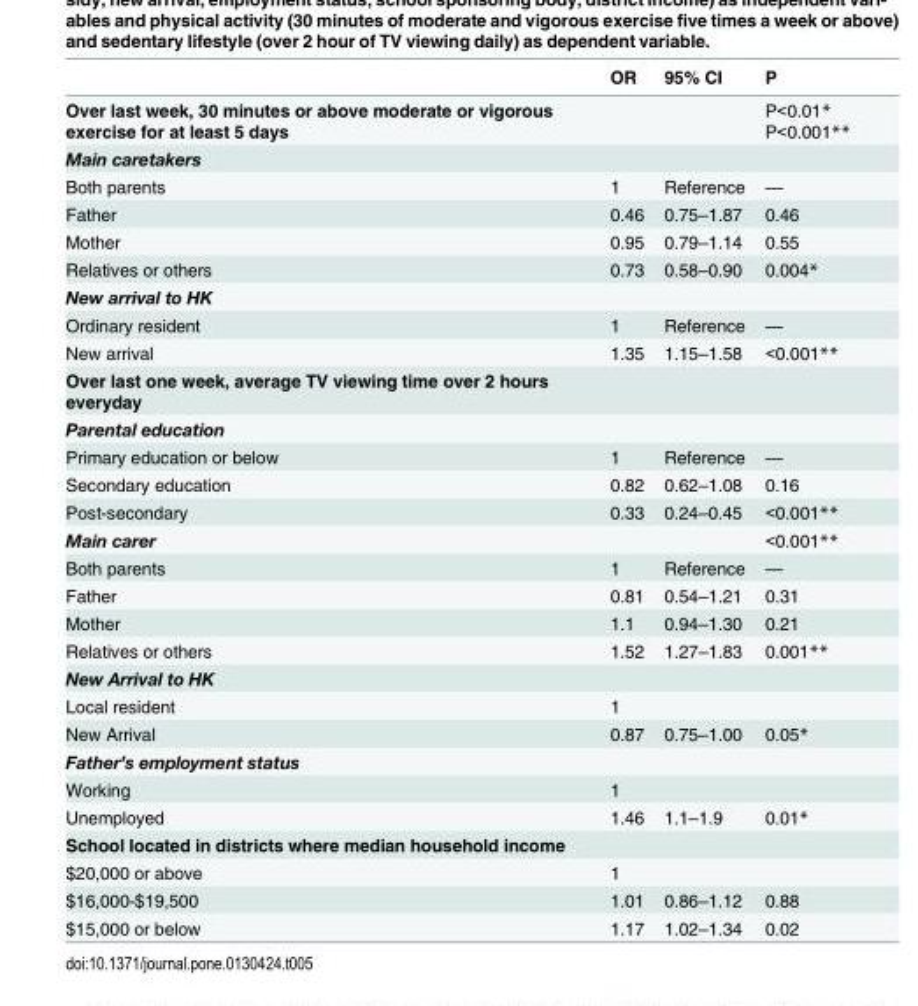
<table><thead><tr><td></td><td>OR</td><td>95% CI</td><td>P</td></tr></thead><tbody><tr><td>Over last week, 30 minutes or above moderate or vigorous exercise for at least 5 days</td><td></td><td></td><td>P&lt;0.01* P&lt;0.001**</td></tr><tr><td colspan="4">Main caretakers</td></tr><tr><td>Both parents</td><td>1</td><td>Reference</td><td>—</td></tr><tr><td>Father</td><td>0.46</td><td>0.75–1.87</td><td>0.46</td></tr><tr><td>Mother</td><td>0.95</td><td>0.79–1.14</td><td>0.55</td></tr><tr><td>Relatives or others</td><td>0.73</td><td>0.58–0.90</td><td>0.004*</td></tr><tr><td colspan="4">New arrival to HK</td></tr><tr><td>Ordinary resident</td><td>1</td><td>Reference</td><td>—</td></tr><tr><td>New arrival</td><td>1.35</td><td>1.15–1.58</td><td>&lt;0.001**</td></tr><tr><td colspan="4">Over last one week, average TV viewing time over 2 hours everyday</td></tr><tr><td colspan="4">Parental education</td></tr><tr><td>Primary education or below</td><td>1</td><td>Reference</td><td>—</td></tr><tr><td>Secondary education</td><td>0.82</td><td>0.62–1.08</td><td>0.16</td></tr><tr><td>Post-secondary</td><td>0.33</td><td>0.24–0.45</td><td>&lt;0.001**</td></tr><tr><td>Main carer</td><td></td><td></td><td>&lt;0.001**</td></tr><tr><td>Both parents</td><td>1</td><td>Reference</td><td>—</td></tr><tr><td>Father</td><td>0.81</td><td>0.54–1.21</td><td>0.31</td></tr><tr><td>Mother</td><td>1.1</td><td>0.94–1.30</td><td>0.21</td></tr><tr><td>Relatives or others</td><td>1.52</td><td>1.27–1.83</td><td>0.001**</td></tr><tr><td colspan="4">New Arrival to HK</td></tr><tr><td>Local resident</td><td>1</td><td></td><td></td></tr><tr><td>New Arrival</td><td>0.87</td><td>0.75–1.00</td><td>0.05*</td></tr><tr><td colspan="4">Father’s employment status</td></tr><tr><td>Working</td><td>1</td><td></td><td></td></tr><tr><td>Unemployed</td><td>1.46</td><td>1.1–1.9</td><td>0.01*</td></tr><tr><td colspan="4">School located in districts where median household income</td></tr><tr><td>$20,000 or above</td><td>1</td><td></td><td></td></tr><tr><td>$16,000-$19,500</td><td>1.01</td><td>0.86–1.12</td><td>0.88</td></tr><tr><td>$15,000 or below</td><td>1.17</td><td>1.02–1.34</td><td>0.02</td></tr></tbody></table>